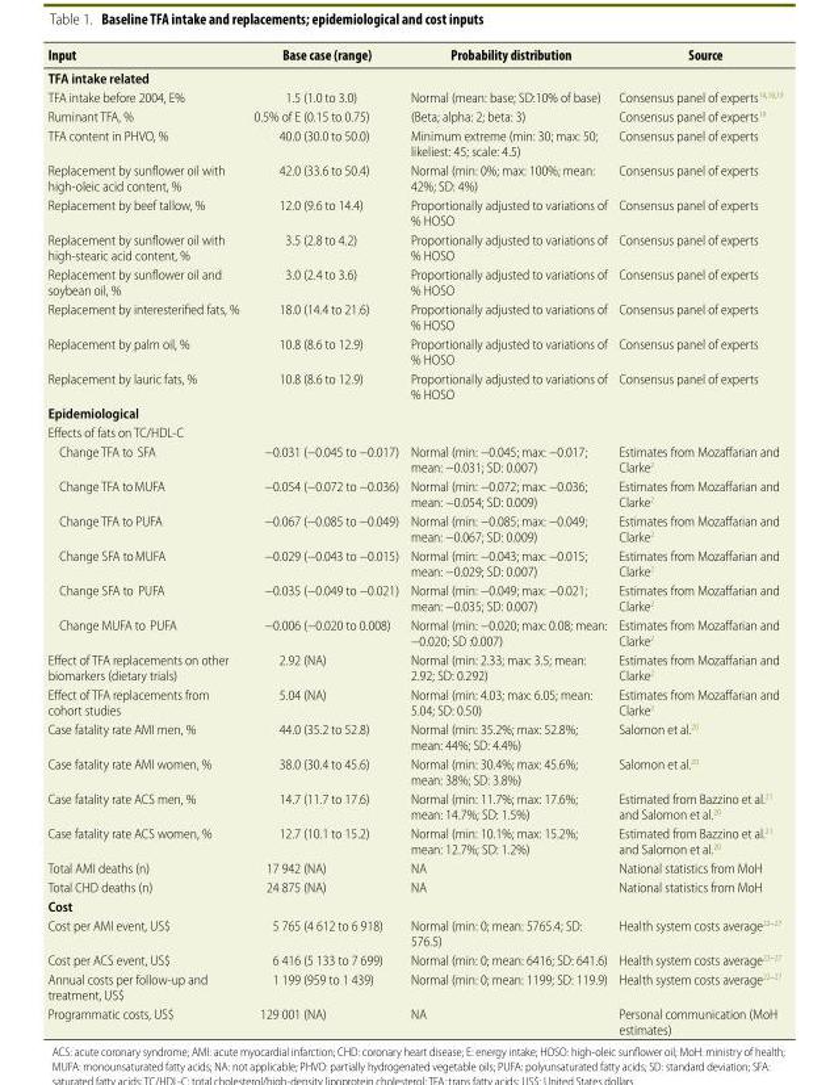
<table><thead><tr><td>Input</td><td>Base case (range)</td><td>Probability distribution</td><td>Source</td></tr></thead><tbody><tr><td colspan="4">TFA intake related</td></tr><tr><td>TFA intake before 2004, E%</td><td>1.5 (1.0 to 3.0)</td><td>Normal (mean: base; SD:10% of base)</td><td>Consensus panel of experts<sup>14,18,19</sup></td></tr><tr><td>Ruminant TFA, %</td><td>0.5% of E (0.15 to 0.75)</td><td>(Beta; alpha: 2; beta: 3)</td><td>Consensus panel of experts<sup>19</sup></td></tr><tr><td>TFA content in PHVO, %</td><td>40.0 (30.0 to 50.0)</td><td>Minimum extreme (min: 30; max: 50; likeliest: 45; scale: 4.5)</td><td>Consensus panel of experts</td></tr><tr><td>Replacement by sunflower oil with high-oleic acid content, %</td><td>42.0 (33.6 to 50.4)</td><td>Normal (min: 0%; max: 100%; mean: 42%; SD: 4%)</td><td>Consensus panel of experts</td></tr><tr><td>Replacement by beef tallow, %</td><td>12.0 (9.6 to 14.4)</td><td>Proportionally adjusted to variations of % HOSO</td><td>Consensus panel of experts</td></tr><tr><td>Replacement by sunflower oil with high-stearic acid content, %</td><td>3.5 (2.8 to 4.2)</td><td>Proportionally adjusted to variations of % HOSO</td><td>Consensus panel of experts</td></tr><tr><td>Replacement by sunflower oil and soybean oil, %</td><td>3.0 (2.4 to 3.6)</td><td>Proportionally adjusted to variations of % HOSO</td><td>Consensus panel of experts</td></tr><tr><td>Replacement by interesterified fats, %</td><td>18.0 (14.4 to 21.6)</td><td>Proportionally adjusted to variations of % HOSO</td><td>Consensus panel of experts</td></tr><tr><td>Replacement by palm oil, %</td><td>10.8 (8.6 to 12.9)</td><td>Proportionally adjusted to variations of % HOSO</td><td>Consensus panel of experts</td></tr><tr><td>Replacement by lauric fats, %</td><td>10.8 (8.6 to 12.9)</td><td>Proportionally adjusted to variations of % HOSO</td><td>Consensus panel of experts</td></tr><tr><td colspan="4">Epidemiological</td></tr><tr><td colspan="4">Effects of fats on TC/HDL-C</td></tr><tr><td>Change TFA to SFA</td><td>−0.031 (−0.045 to −0.017)</td><td>Normal (min: −0.045; max: −0.017; mean: −0.031; SD: 0.007)</td><td>Estimates from Mozaffarian and Clarke<sup>2</sup></td></tr><tr><td>Change TFA to MUFA</td><td>−0.054 (−0.072 to −0.036)</td><td>Normal (min: −0.072; max: −0.036; mean: −0.054; SD: 0.009)</td><td>Estimates from Mozaffarian and Clarke<sup>2</sup></td></tr><tr><td>Change TFA to PUFA</td><td>−0.067 (−0.085 to −0.049)</td><td>Normal (min: −0.085; max: −0.049; mean: −0.067; SD: 0.009)</td><td>Estimates from Mozaffarian and Clarke<sup>2</sup></td></tr><tr><td>Change SFA to MUFA</td><td>−0.029 (−0.043 to −0.015)</td><td>Normal (min: −0.043; max: −0.015; mean: −0.029; SD: 0.007)</td><td>Estimates from Mozaffarian and Clarke<sup>2</sup></td></tr><tr><td>Change SFA to PUFA</td><td>−0.035 (−0.049 to −0.021)</td><td>Normal (min: −0.049; max: −0.021; mean: −0.035; SD: 0.007)</td><td>Estimates from Mozaffarian and Clarke<sup>2</sup></td></tr><tr><td>Change MUFA to PUFA</td><td>−0.006 (−0.020 to 0.008)</td><td>Normal (min: −0.020; max: 0.08; mean: −0.020; SD :0.007)</td><td>Estimates from Mozaffarian and Clarke<sup>2</sup></td></tr><tr><td>Effect of TFA replacements on other biomarkers (dietary trials)</td><td>2.92 (NA)</td><td>Normal (min: 2.33; max: 3.5; mean: 2.92; SD: 0.292)</td><td>Estimates from Mozaffarian and Clarke<sup>2</sup></td></tr><tr><td>Effect of TFA replacements from cohort studies</td><td>5.04 (NA)</td><td>Normal (min: 4.03; max: 6.05; mean: 5.04; SD: 0.50)</td><td>Estimates from Mozaffarian and Clarke<sup>2</sup></td></tr><tr><td>Case fatality rate AMI men, %</td><td>44.0 (35.2 to 52.8)</td><td>Normal (min: 35.2%; max: 52.8%; mean: 44%; SD: 4.4%)</td><td>Salomon et al.<sup>20</sup></td></tr><tr><td>Case fatality rate AMI women, %</td><td>38.0 (30.4 to 45.6)</td><td>Normal (min: 30.4%; max: 45.6%; mean: 38%; SD: 3.8%)</td><td>Salomon et al.<sup>20</sup></td></tr><tr><td>Case fatality rate ACS men, %</td><td>14.7 (11.7 to 17.6)</td><td>Normal (min: 11.7%; max: 17.6%; mean: 14.7%; SD: 1.5%)</td><td>Estimated from Bazzino et al.<sup>21</sup> and Salomon et al.<sup>20</sup></td></tr><tr><td>Case fatality rate ACS women, %</td><td>12.7 (10.1 to 15.2)</td><td>Normal (min: 10.1%; max: 15.2%; mean: 12.7%; SD: 1.2%)</td><td>Estimated from Bazzino et al.<sup>21</sup> and Salomon et al.<sup>20</sup></td></tr><tr><td>Total AMI deaths (n)</td><td>17 942 (NA)</td><td>NA</td><td>National statistics from MoH</td></tr><tr><td>Total CHD deaths (n)</td><td>24 875 (NA)</td><td>NA</td><td>National statistics from MoH</td></tr><tr><td colspan="4">Cost</td></tr><tr><td>Cost per AMI event, US$</td><td>5 765 (4 612 to 6 918)</td><td>Normal (min: 0; mean: 5765.4; SD: 576.5)</td><td>Health system costs average<sup>22–27</sup></td></tr><tr><td>Cost per ACS event, US$</td><td>6 416 (5 133 to 7 699)</td><td>Normal (min: 0; mean: 6416; SD: 641.6)</td><td>Health system costs average<sup>22–27</sup></td></tr><tr><td>Annual costs per follow-up and treatment, US$</td><td>1 199 (959 to 1 439)</td><td>Normal (min: 0; mean: 1199; SD: 119.9)</td><td>Health system costs average<sup>22–27</sup></td></tr><tr><td>Programmatic costs, US$</td><td>129 001 (NA)</td><td>NA</td><td>Personal communication (MoH estimates)</td></tr></tbody></table>